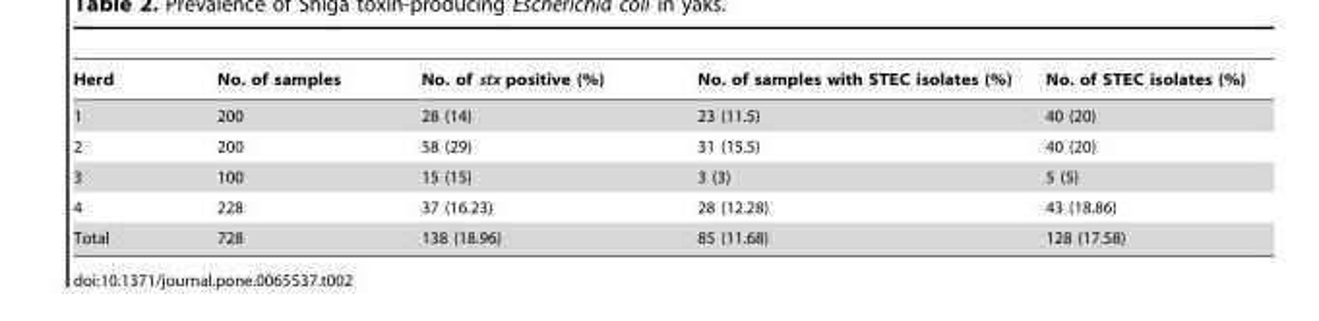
<table><thead><tr><td>Herd</td><td>No. of samples</td><td>No. of stx positive (%)</td><td>No. of samples with STEC isolates (%)</td><td>No. of STEC isolates (%)</td></tr></thead><tbody><tr><td>1</td><td>200</td><td>28 (14)</td><td>23 (11.5)</td><td>40 (20)</td></tr><tr><td>2</td><td>200</td><td>58 (29)</td><td>31 (15.5)</td><td>40 (20)</td></tr><tr><td>3</td><td>100</td><td>15 (15)</td><td>3 (3)</td><td>5 (5)</td></tr><tr><td>4</td><td>228</td><td>37 (16.23)</td><td>28 (12.28)</td><td>43 (18.86)</td></tr><tr><td>Total</td><td>728</td><td>138 (18.96)</td><td>85 (11.68)</td><td>128 (17.58)</td></tr></tbody></table>